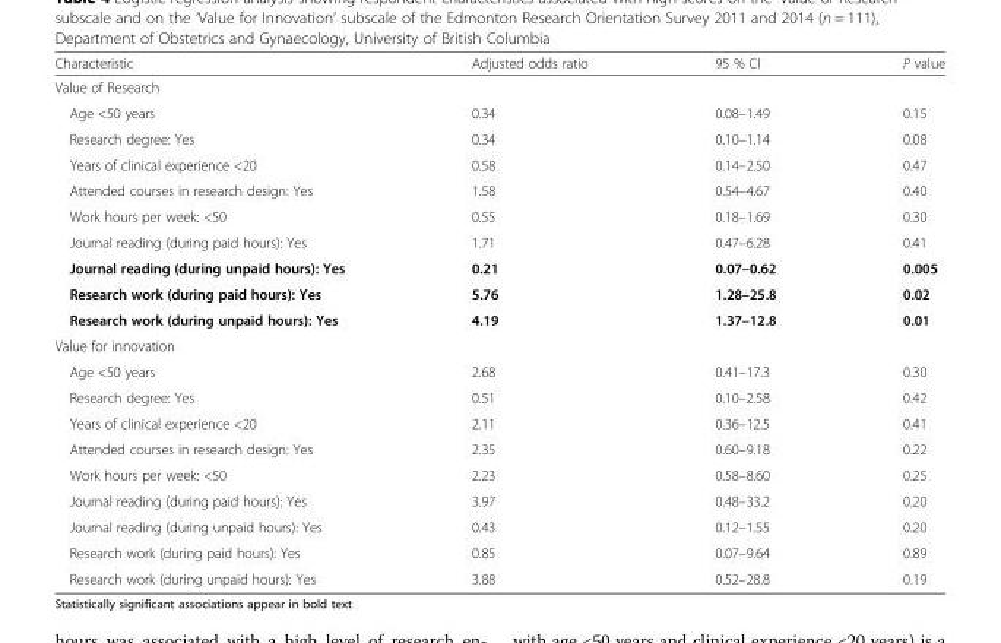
<table><thead><tr><td>Characteristic</td><td>Adjusted odds ratio</td><td>95 % CI</td><td>P value</td></tr></thead><tbody><tr><td colspan="4">Value of Research</td></tr><tr><td>Age &lt;50 years</td><td>0.34</td><td>0.08–1.49</td><td>0.15</td></tr><tr><td>Research degree: Yes</td><td>0.34</td><td>0.10–1.14</td><td>0.08</td></tr><tr><td>Years of clinical experience &lt;20</td><td>0.58</td><td>0.14–2.50</td><td>0.47</td></tr><tr><td>Attended courses in research design: Yes</td><td>1.58</td><td>0.54–4.67</td><td>0.40</td></tr><tr><td>Work hours per week: &lt;50</td><td>0.55</td><td>0.18–1.69</td><td>0.30</td></tr><tr><td>Journal reading (during paid hours): Yes</td><td>1.71</td><td>0.47–6.28</td><td>0.41</td></tr><tr><td>Journal reading (during unpaid hours): Yes</td><td>0.21</td><td>0.07–0.62</td><td>0.005</td></tr><tr><td>Research work (during paid hours): Yes</td><td>5.76</td><td>1.28–25.8</td><td>0.02</td></tr><tr><td>Research work (during unpaid hours): Yes</td><td>4.19</td><td>1.37–12.8</td><td>0.01</td></tr><tr><td colspan="4">Value for innovation</td></tr><tr><td>Age &lt;50 years</td><td>2.68</td><td>0.41–17.3</td><td>0.30</td></tr><tr><td>Research degree: Yes</td><td>0.51</td><td>0.10–2.58</td><td>0.42</td></tr><tr><td>Years of clinical experience &lt;20</td><td>2.11</td><td>0.36–12.5</td><td>0.41</td></tr><tr><td>Attended courses in research design: Yes</td><td>2.35</td><td>0.60–9.18</td><td>0.22</td></tr><tr><td>Work hours per week: &lt;50</td><td>2.23</td><td>0.58–8.60</td><td>0.25</td></tr><tr><td>Journal reading (during paid hours): Yes</td><td>3.97</td><td>0.48–33.2</td><td>0.20</td></tr><tr><td>Journal reading (during unpaid hours): Yes</td><td>0.43</td><td>0.12–1.55</td><td>0.20</td></tr><tr><td>Research work (during paid hours): Yes</td><td>0.85</td><td>0.07–9.64</td><td>0.89</td></tr><tr><td>Research work (during unpaid hours): Yes</td><td>3.88</td><td>0.52–28.8</td><td>0.19</td></tr></tbody></table>